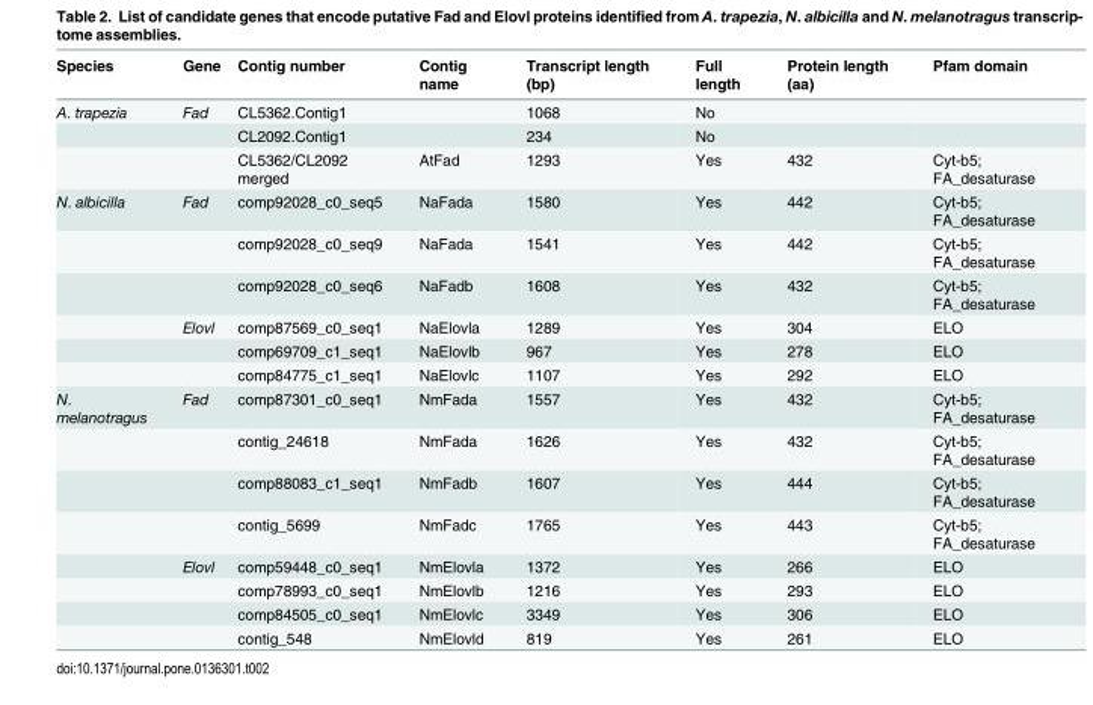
<table><thead><tr><td>Species</td><td>Gene</td><td>Contig number</td><td>Contig name</td><td>Transcript length (bp)</td><td>Full length</td><td>Protein length (aa)</td><td>Pfam domain</td></tr></thead><tbody><tr><td rowspan="3">A. trapezia</td><td>Fad</td><td>CL5362.Contig1</td><td></td><td>1068</td><td>No</td><td></td><td></td></tr><tr><td></td><td>CL2092.Contig1</td><td></td><td>234</td><td>No</td><td></td><td></td></tr><tr><td></td><td>CL5362/CL2092 merged</td><td>AtFad</td><td>1293</td><td>Yes</td><td>432</td><td>Cyt-b5; FA_desaturase</td></tr><tr><td rowspan="6">N. albicilla</td><td>Fad</td><td>comp92028_c0_seq5</td><td>NaFada</td><td>1580</td><td>Yes</td><td>442</td><td>Cyt-b5; FA_desaturase</td></tr><tr><td></td><td>comp92028_c0_seq9</td><td>NaFada</td><td>1541</td><td>Yes</td><td>442</td><td>Cyt-b5; FA_desaturase</td></tr><tr><td></td><td>comp92028_c0_seq6</td><td>NaFadb</td><td>1608</td><td>Yes</td><td>432</td><td>Cyt-b5; FA_desaturase</td></tr><tr><td>Elovl</td><td>comp87569_c0_seq1</td><td>NaElovla</td><td>1289</td><td>Yes</td><td>304</td><td>ELO</td></tr><tr><td></td><td>comp69709_c1_seq1</td><td>NaElovlb</td><td>967</td><td>Yes</td><td>278</td><td>ELO</td></tr><tr><td></td><td>comp84775_c1_seq1</td><td>NaElovlc</td><td>1107</td><td>Yes</td><td>292</td><td>ELO</td></tr><tr><td rowspan="8">N. melanotragus</td><td>Fad</td><td>comp87301_c0_seq1</td><td>NmFada</td><td>1557</td><td>Yes</td><td>432</td><td>Cyt-b5; FA_desaturase</td></tr><tr><td></td><td>contig_24618</td><td>NmFada</td><td>1626</td><td>Yes</td><td>432</td><td>Cyt-b5; FA_desaturase</td></tr><tr><td></td><td>comp88083_c1_seq1</td><td>NmFadb</td><td>1607</td><td>Yes</td><td>444</td><td>Cyt-b5; FA_desaturase</td></tr><tr><td></td><td>contig_5699</td><td>NmFadc</td><td>1765</td><td>Yes</td><td>443</td><td>Cyt-b5; FA_desaturase</td></tr><tr><td>Elovl</td><td>comp59448_c0_seq1</td><td>NmElovla</td><td>1372</td><td>Yes</td><td>266</td><td>ELO</td></tr><tr><td></td><td>comp78993_c0_seq1</td><td>NmElovlb</td><td>1216</td><td>Yes</td><td>293</td><td>ELO</td></tr><tr><td></td><td>comp84505_c0_seq1</td><td>NmElovlc</td><td>3349</td><td>Yes</td><td>306</td><td>ELO</td></tr><tr><td></td><td>contig_548</td><td>NmElovld</td><td>819</td><td>Yes</td><td>261</td><td>ELO</td></tr></tbody></table>